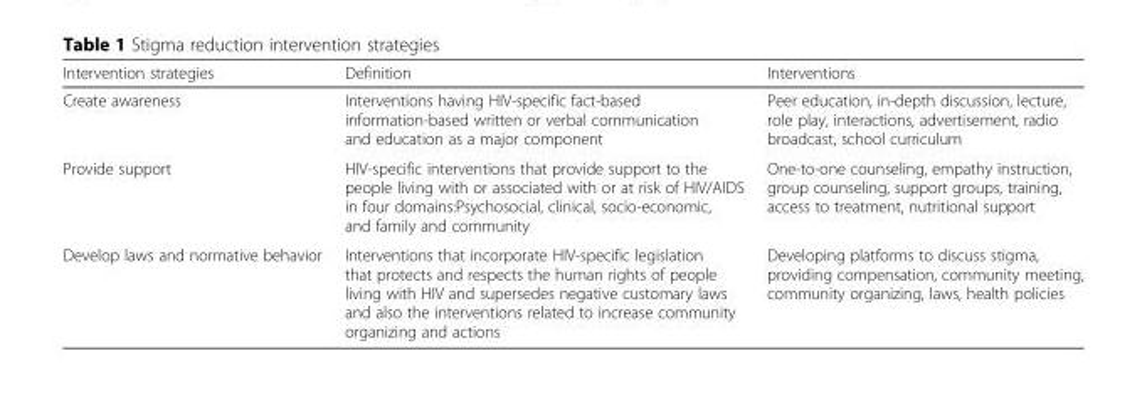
<table><thead><tr><td>Intervention strategies</td><td>Definition</td><td>Interventions</td></tr></thead><tbody><tr><td>Create awareness</td><td>Interventions having HIV-specific fact-based information-based written or verbal communication and education as a major component</td><td>Peer education, in-depth discussion, lecture, role play, interactions, advertisement, radio broadcast, school curriculum</td></tr><tr><td>Provide support</td><td>HIV-specific interventions that provide support to the people living with or associated with or at risk of HIV/AIDS in four domains:Psychosocial, clinical, socio-economic, and family and community</td><td>One-to-one counseling, empathy instruction, group counseling, support groups, training, access to treatment, nutritional support</td></tr><tr><td>Develop laws and normative behavior</td><td>Interventions that incorporate HIV-specific legislation that protects and respects the human rights of people living with HIV and supersedes negative customary laws and also the interventions related to increase community organizing and actions</td><td>Developing platforms to discuss stigma, providing compensation, community meeting, community organizing, laws, health policies</td></tr></tbody></table>